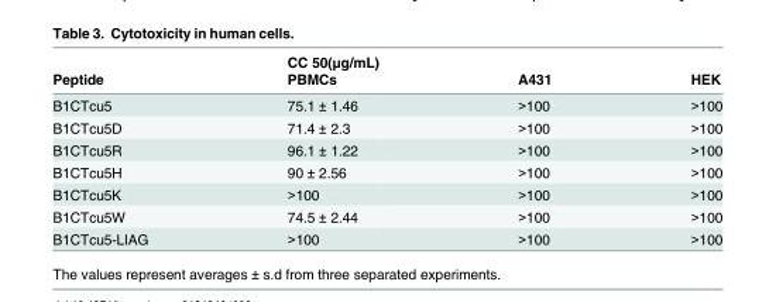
<table><thead><tr><td rowspan="2">Peptide</td><td rowspan="2">CC 50(μg/mL) PBMCs</td><td rowspan="2">A431</td><td rowspan="2">HEK</td></tr><tr></tr></thead><tbody><tr><td>B1CTcu5</td><td>75.1 ± 1.46</td><td>&gt;100</td><td>&gt;100</td></tr><tr><td>B1CTcu5D</td><td>71.4 ± 2.3</td><td>&gt;100</td><td>&gt;100</td></tr><tr><td>B1CTcu5R</td><td>96.1 ± 1.22</td><td>&gt;100</td><td>&gt;100</td></tr><tr><td>B1CTcu5H</td><td>90 ± 2.56</td><td>&gt;100</td><td>&gt;100</td></tr><tr><td>B1CTcu5K</td><td>&gt;100</td><td>&gt;100</td><td>&gt;100</td></tr><tr><td>B1CTcu5W</td><td>74.5 ± 2.44</td><td>&gt;100</td><td>&gt;100</td></tr><tr><td>B1CTcu5-LIAG</td><td>&gt;100</td><td>&gt;100</td><td>&gt;100</td></tr></tbody></table>